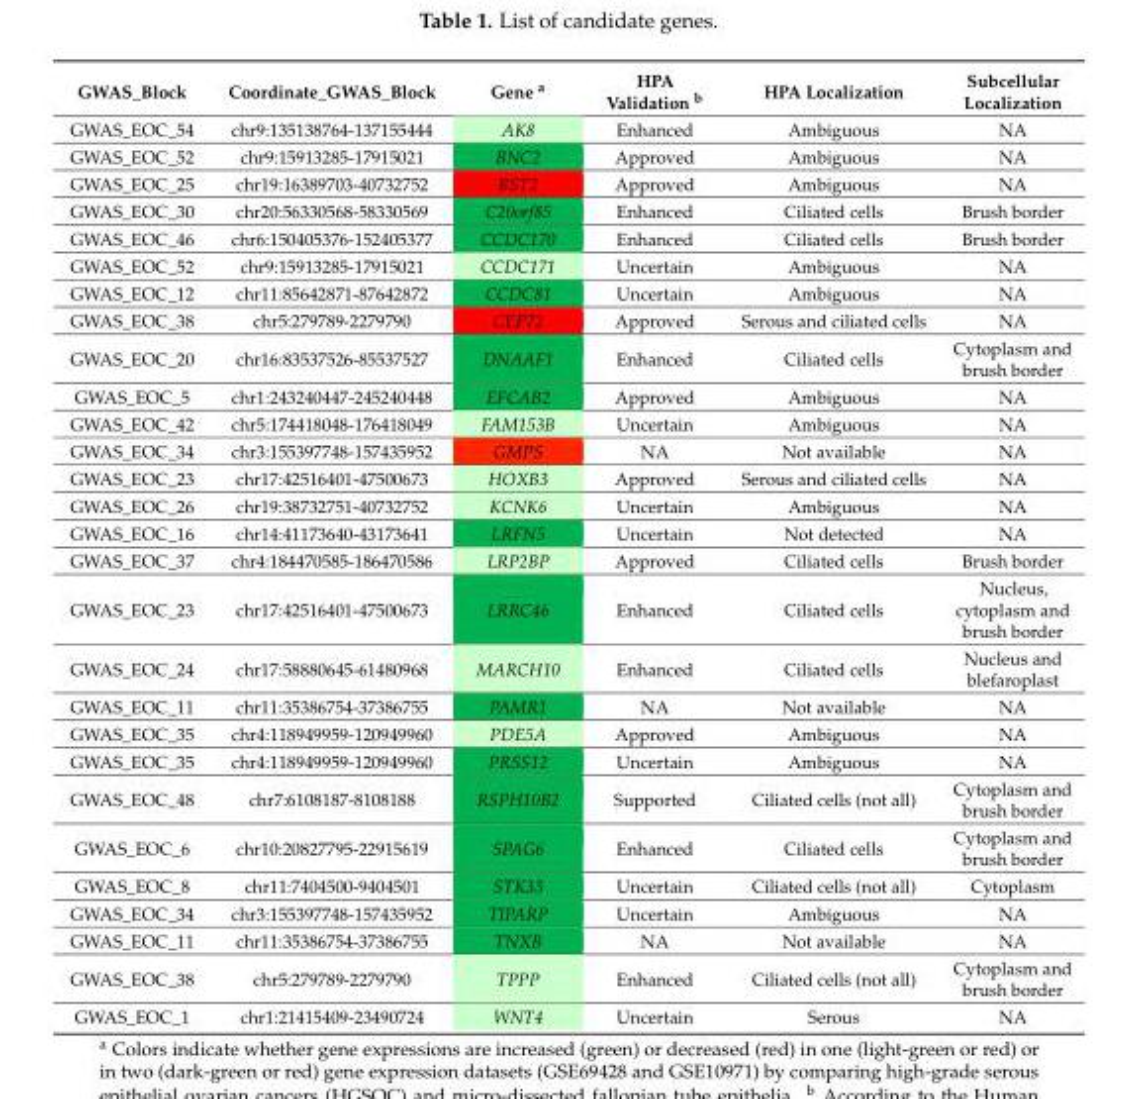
<table><thead><tr><td>GWAS_Block</td><td>Coordinate_GWAS_Block</td><td>Gene <sup>a</sup></td><td>HPA Validation <sup>b</sup></td><td>HPA Localization</td><td>Subcellular Localization</td></tr></thead><tbody><tr><td>GWAS_EOC_54</td><td>chr9:135138764-137155444</td><td>AK8</td><td>Enhanced</td><td>Ambiguous</td><td>NA</td></tr><tr><td>GWAS_EOC_52</td><td>chr9:15913285-17915021</td><td>BNC2</td><td>Approved</td><td>Ambiguous</td><td>NA</td></tr><tr><td>GWAS_EOC_25</td><td>chr19:16389703-40732752</td><td>BST2</td><td>Approved</td><td>Ambiguous</td><td>NA</td></tr><tr><td>GWAS_EOC_30</td><td>chr20:56330568-58330569</td><td>C20orf85</td><td>Enhanced</td><td>Ciliated cells</td><td>Brush border</td></tr><tr><td>GWAS_EOC_46</td><td>chr6:150405376-152405377</td><td>CCDC170</td><td>Enhanced</td><td>Ciliated cells</td><td>Brush border</td></tr><tr><td>GWAS_EOC_52</td><td>chr9:15913285-17915021</td><td>CCDC171</td><td>Uncertain</td><td>Ambiguous</td><td>NA</td></tr><tr><td>GWAS_EOC_12</td><td>chr11:85642871-87642872</td><td>CCDC81</td><td>Uncertain</td><td>Ambiguous</td><td>NA</td></tr><tr><td>GWAS_EOC_38</td><td>chr5:279789-2279790</td><td>CEP72</td><td>Approved</td><td>Serous and ciliated cells</td><td>NA</td></tr><tr><td>GWAS_EOC_20</td><td>chr16:83537526-85537527</td><td>DNAAF1</td><td>Enhanced</td><td>Ciliated cells</td><td>Cytoplasm and brush border</td></tr><tr><td>GWAS_EOC_5</td><td>chr1:243240447-245240448</td><td>EFCAB2</td><td>Approved</td><td>Ambiguous</td><td>NA</td></tr><tr><td>GWAS_EOC_42</td><td>chr5:174418048-176418049</td><td>FAM153B</td><td>Uncertain</td><td>Ambiguous</td><td>NA</td></tr><tr><td>GWAS_EOC_34</td><td>chr3:155397748-157435952</td><td>GMPS</td><td>NA</td><td>Not available</td><td>NA</td></tr><tr><td>GWAS_EOC_23</td><td>chr17:42516401-47500673</td><td>HOXB3</td><td>Approved</td><td>Serous and ciliated cells</td><td>NA</td></tr><tr><td>GWAS_EOC_26</td><td>chr19:38732751-40732752</td><td>KCNK6</td><td>Uncertain</td><td>Ambiguous</td><td>NA</td></tr><tr><td>GWAS_EOC_16</td><td>chr14:41173640-43173641</td><td>LRFN5</td><td>Uncertain</td><td>Not detected</td><td>NA</td></tr><tr><td>GWAS_EOC_37</td><td>chr4:184470585-186470586</td><td>LRP2BP</td><td>Approved</td><td>Ciliated cells</td><td>Brush border</td></tr><tr><td>GWAS_EOC_23</td><td>chr17:42516401-47500673</td><td>LRRC46</td><td>Enhanced</td><td>Ciliated cells</td><td>Nucleus, cytoplasm and brush border</td></tr><tr><td>GWAS_EOC_24</td><td>chr17:58880645-61480968</td><td>MARCH10</td><td>Enhanced</td><td>Ciliated cells</td><td>Nucleus and blefaroplast</td></tr><tr><td>GWAS_EOC_11</td><td>chr11:35386754-37386755</td><td>PAMR1</td><td>NA</td><td>Not available</td><td>NA</td></tr><tr><td>GWAS_EOC_35</td><td>chr4:118949959-120949960</td><td>PDE5A</td><td>Approved</td><td>Ambiguous</td><td>NA</td></tr><tr><td>GWAS_EOC_35</td><td>chr4:118949959-120949960</td><td>PRSS12</td><td>Uncertain</td><td>Ambiguous</td><td>NA</td></tr><tr><td>GWAS_EOC_48</td><td>chr7:6108187-8108188</td><td>RSPH10B2</td><td>Supported</td><td>Ciliated cells (not all)</td><td>Cytoplasm and brush border</td></tr><tr><td>GWAS_EOC_6</td><td>chr10:20827795-22915619</td><td>SPAG6</td><td>Enhanced</td><td>Ciliated cells</td><td>Cytoplasm and brush border</td></tr><tr><td>GWAS_EOC_8</td><td>chr11:7404500-9404501</td><td>STK33</td><td>Uncertain</td><td>Ciliated cells (not all)</td><td>Cytoplasm</td></tr><tr><td>GWAS_EOC_34</td><td>chr3:155397748-157435952</td><td>TIPARP</td><td>Uncertain</td><td>Ambiguous</td><td>NA</td></tr><tr><td>GWAS_EOC_11</td><td>chr11:35386754-37386755</td><td>TNXB</td><td>NA</td><td>Not available</td><td>NA</td></tr><tr><td>GWAS_EOC_38</td><td>chr5:279789-2279790</td><td>TPPP</td><td>Enhanced</td><td>Ciliated cells (not all)</td><td>Cytoplasm and brush border</td></tr><tr><td>GWAS_EOC_1</td><td>chr1:21415409-23490724</td><td>WNT4</td><td>Uncertain</td><td>Serous</td><td>NA</td></tr></tbody></table>